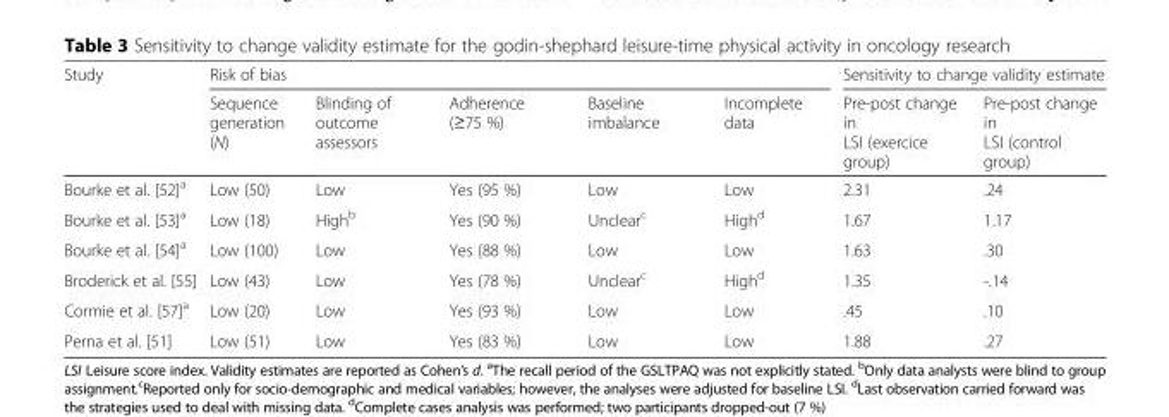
<table><thead><tr><td rowspan="2">Study</td><td colspan="5">Risk of bias</td><td colspan="2">Sensitivity to change validity estimate</td></tr><tr><td>Sequence generation (N)</td><td>Blinding of outcome assessors</td><td>Adherence (≥75 %)</td><td>Baseline imbalance</td><td>Incomplete data</td><td>Pre-post change in LSI (exercice group)</td><td>Pre-post change in LSI (control group)</td></tr></thead><tbody><tr><td>Bourke et al. [52]<sup>a</sup></td><td>Low (50)</td><td>Low</td><td>Yes (95 %)</td><td>Low</td><td>Low</td><td>2.31</td><td>.24</td></tr><tr><td>Bourke et al. [53]<sup>a</sup></td><td>Low (18)</td><td>High<sup>b</sup></td><td>Yes (90 %)</td><td>Unclear<sup>c</sup></td><td>High<sup>d</sup></td><td>1.67</td><td>1.17</td></tr><tr><td>Bourke et al. [54]<sup>a</sup></td><td>Low (100)</td><td>Low</td><td>Yes (88 %)</td><td>Low</td><td>Low</td><td>1.63</td><td>.30</td></tr><tr><td>Broderick et al. [55]</td><td>Low (43)</td><td>Low</td><td>Yes (78 %)</td><td>Unclear<sup>c</sup></td><td>High<sup>d</sup></td><td>1.35</td><td>-.14</td></tr><tr><td>Cormie et al. [57]<sup>a</sup></td><td>Low (20)</td><td>Low</td><td>Yes (93 %)</td><td>Low</td><td>Low</td><td>.45</td><td>.10</td></tr><tr><td>Perna et al. [51]</td><td>Low (51)</td><td>Low</td><td>Yes (83 %)</td><td>Low</td><td>Low</td><td>1.88</td><td>.27</td></tr></tbody></table>